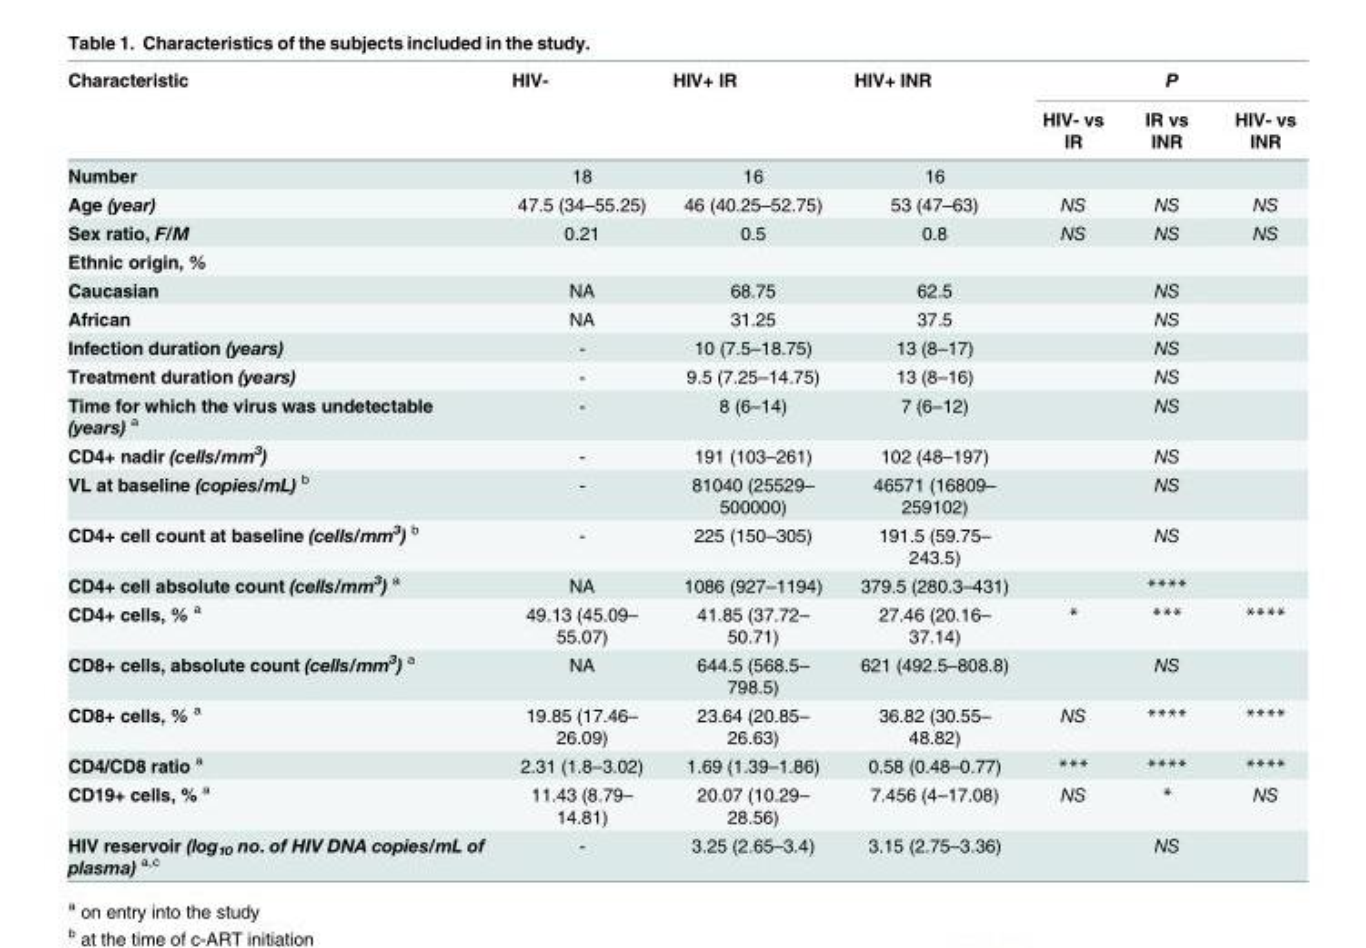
<table><thead><tr><td rowspan="2">Characteristic</td><td rowspan="2">HIV-</td><td rowspan="2">HIV+ IR</td><td rowspan="2">HIV+ INR</td><td colspan="3">P</td></tr><tr><td>HIV- vs IR</td><td>IR vs INR</td><td>HIV- vs INR</td></tr></thead><tbody><tr><td>Number</td><td>18</td><td>16</td><td>16</td><td></td><td></td><td></td></tr><tr><td>Age (year)</td><td>47.5 (34–55.25)</td><td>46 (40.25–52.75)</td><td>53 (47–63)</td><td>NS</td><td>NS</td><td>NS</td></tr><tr><td>Sex ratio, F/M</td><td>0.21</td><td>0.5</td><td>0.8</td><td>NS</td><td>NS</td><td>NS</td></tr><tr><td colspan="7">Ethnic origin, %</td></tr><tr><td>Caucasian</td><td>NA</td><td>68.75</td><td>62.5</td><td></td><td>NS</td><td></td></tr><tr><td>African</td><td>NA</td><td>31.25</td><td>37.5</td><td></td><td>NS</td><td></td></tr><tr><td>Infection duration (years)</td><td>-</td><td>10 (7.5–18.75)</td><td>13 (8–17)</td><td></td><td>NS</td><td></td></tr><tr><td>Treatment duration (years)</td><td>-</td><td>9.5 (7.25–14.75)</td><td>13 (8–16)</td><td></td><td>NS</td><td></td></tr><tr><td>Time for which the virus was undetectable (years) <sup>a</sup></td><td>-</td><td>8 (6–14)</td><td>7 (6–12)</td><td></td><td>NS</td><td></td></tr><tr><td>CD4+ nadir (cells/mm<sup>3</sup>)</td><td>-</td><td>191 (103–261)</td><td>102 (48–197)</td><td></td><td>NS</td><td></td></tr><tr><td>VL at baseline (copies/mL) <sup>b</sup></td><td>-</td><td>81040 (25529– 500000)</td><td>46571 (16809– 259102)</td><td></td><td>NS</td><td></td></tr><tr><td>CD4+ cell count at baseline (cells/mm<sup>3</sup>) <sup>b</sup></td><td>-</td><td>225 (150–305)</td><td>191.5 (59.75– 243.5)</td><td></td><td>NS</td><td></td></tr><tr><td>CD4+ cell absolute count (cells/mm<sup>3</sup>) <sup>a</sup></td><td>NA</td><td>1086 (927–1194)</td><td>379.5 (280.3–431)</td><td></td><td>****</td><td></td></tr><tr><td>CD4+ cells, % <sup>a</sup></td><td>49.13 (45.09– 55.07)</td><td>41.85 (37.72– 50.71)</td><td>27.46 (20.16– 37.14)</td><td>*</td><td>***</td><td>****</td></tr><tr><td>CD8+ cells, absolute count (cells/mm<sup>3</sup>) <sup>a</sup></td><td>NA</td><td>644.5 (568.5– 798.5)</td><td>621 (492.5–808.8)</td><td></td><td>NS</td><td></td></tr><tr><td>CD8+ cells, % <sup>a</sup></td><td>19.85 (17.46– 26.09)</td><td>23.64 (20.85– 26.63)</td><td>36.82 (30.55– 48.82)</td><td>NS</td><td>****</td><td>****</td></tr><tr><td>CD4/CD8 ratio <sup>a</sup></td><td>2.31 (1.8–3.02)</td><td>1.69 (1.39–1.86)</td><td>0.58 (0.48–0.77)</td><td>***</td><td>****</td><td>****</td></tr><tr><td>CD19+ cells, % <sup>a</sup></td><td>11.43 (8.79– 14.81)</td><td>20.07 (10.29– 28.56)</td><td>7.456 (4–17.08)</td><td>NS</td><td>*</td><td>NS</td></tr><tr><td>HIV reservoir (log<sub>10</sub> no. of HIV DNA copies/mL of plasma) <sup>a,c</sup></td><td>-</td><td>3.25 (2.65–3.4)</td><td>3.15 (2.75–3.36)</td><td></td><td>NS</td><td></td></tr></tbody></table>